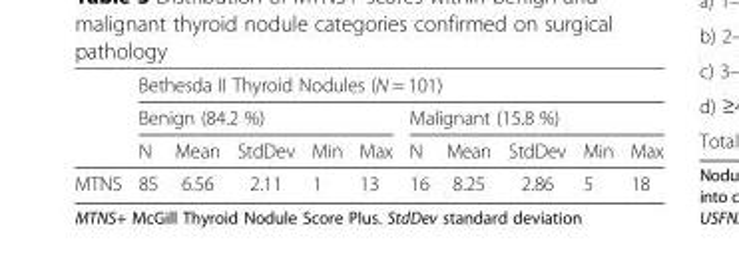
<table><thead><tr><td rowspan="3"></td><td colspan="10">Bethesda II Thyroid Nodules (N = 101)</td></tr><tr><td colspan="5">Benign (84.2 %)</td><td colspan="5">Malignant (15.8 %)</td></tr><tr><td>N</td><td>Mean</td><td>StdDev</td><td>Min</td><td>Max</td><td>N</td><td>Mean</td><td>StdDev</td><td>Min</td><td>Max</td></tr></thead><tbody><tr><td>MTNS</td><td>85</td><td>6.56</td><td>2.11</td><td>1</td><td>13</td><td>16</td><td>8.25</td><td>2.86</td><td>5</td><td>18</td></tr></tbody></table>